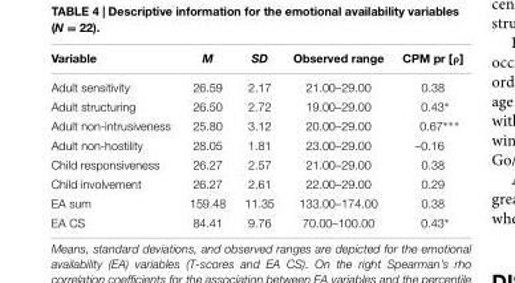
<table><thead><tr><td>Variable</td><td>M</td><td>SD</td><td>Observed range</td><td>CPM pr [ρ]</td></tr></thead><tbody><tr><td>Adult sensitivity</td><td>26.59</td><td>2.17</td><td>21.00–29.00</td><td>0.38</td></tr><tr><td>Adult structuring</td><td>26.50</td><td>2.72</td><td>19.00–29.00</td><td>0.43∗</td></tr><tr><td>Adult non-intrusiveness</td><td>25.80</td><td>3.12</td><td>20.00–29.00</td><td>0.67∗∗∗</td></tr><tr><td>Adult non-hostility</td><td>28.05</td><td>1.81</td><td>23.00–29.00</td><td>–0.16</td></tr><tr><td>Child responsiveness</td><td>26.27</td><td>2.57</td><td>21.00–29.00</td><td>0.38</td></tr><tr><td>Child involvement</td><td>26.27</td><td>2.61</td><td>22.00–29.00</td><td>0.29</td></tr><tr><td>EA sum</td><td>159.48</td><td>11.35</td><td>133.00–174.00</td><td>0.38</td></tr><tr><td>EA CS</td><td>84.41</td><td>9.76</td><td>70.00–100.00</td><td>0.43∗</td></tr></tbody></table>